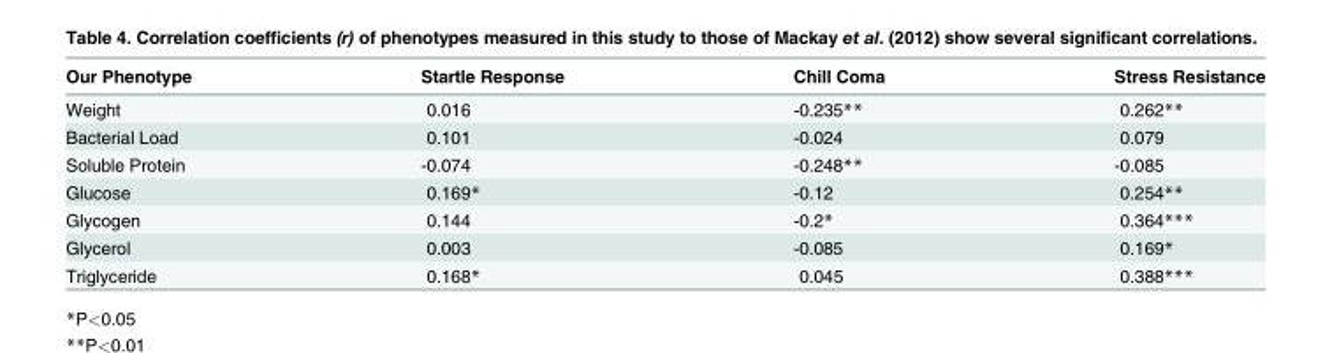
<table><thead><tr><td>Our Phenotype</td><td>Startle Response</td><td>Chill Coma</td><td>Stress Resistance</td></tr></thead><tbody><tr><td>Weight</td><td>0.016</td><td>-0.235**</td><td>0.262**</td></tr><tr><td>Bacterial Load</td><td>0.101</td><td>-0.024</td><td>0.079</td></tr><tr><td>Soluble Protein</td><td>-0.074</td><td>-0.248**</td><td>-0.085</td></tr><tr><td>Glucose</td><td>0.169*</td><td>-0.12</td><td>0.254**</td></tr><tr><td>Glycogen</td><td>0.144</td><td>-0.2*</td><td>0.364***</td></tr><tr><td>Glycerol</td><td>0.003</td><td>-0.085</td><td>0.169*</td></tr><tr><td>Triglyceride</td><td>0.168*</td><td>0.045</td><td>0.388***</td></tr></tbody></table>